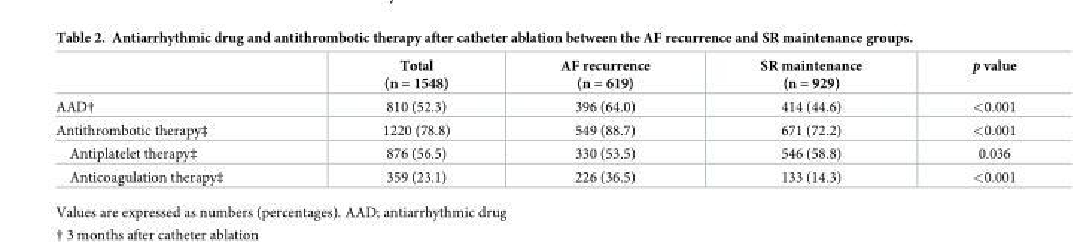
<table><thead><tr><td></td><td>Total (n = 1548)</td><td>AF recurrence (n = 619)</td><td>SR maintenance (n = 929)</td><td>p value</td></tr></thead><tbody><tr><td>AAD†</td><td>810 (52.3)</td><td>396 (64.0)</td><td>414 (44.6)</td><td>&lt;0.001</td></tr><tr><td>Antithrombotic therapy‡</td><td>1220 (78.8)</td><td>549 (88.7)</td><td>671 (72.2)</td><td>&lt;0.001</td></tr><tr><td>Antiplatelet therapy‡</td><td>876 (56.5)</td><td>330 (53.5)</td><td>546 (58.8)</td><td>0.036</td></tr><tr><td>Anticoagulation therapy‡</td><td>359 (23.1)</td><td>226 (36.5)</td><td>133 (14.3)</td><td>&lt;0.001</td></tr></tbody></table>